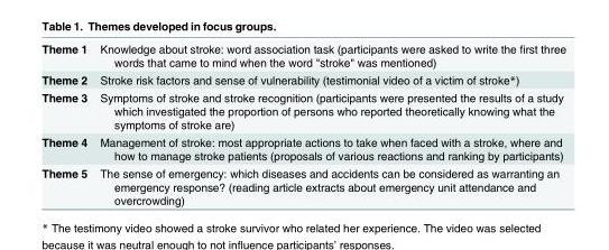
<table><tbody><tr><td>Theme 1</td><td>Knowledge about stroke: word association task (participants were asked to write the first three words that came to mind when the word &quot;stroke&quot; was mentioned)</td></tr><tr><td>Theme 2</td><td>Stroke risk factors and sense of vulnerability (testimonial video of a victim of stroke*)</td></tr><tr><td>Theme 3</td><td>Symptoms of stroke and stroke recognition (participants were presented the results of a study which investigated the proportion of persons who reported theoretically knowing what the symptoms of stroke are)</td></tr><tr><td>Theme 4</td><td>Management of stroke: most appropriate actions to take when faced with a stroke, where and how to manage stroke patients (proposals of various reactions and ranking by participants)</td></tr><tr><td>Theme 5</td><td>The sense of emergency: which diseases and accidents can be considered as warranting an emergency response? (reading article extracts about emergency unit attendance and overcrowding)</td></tr></tbody></table>